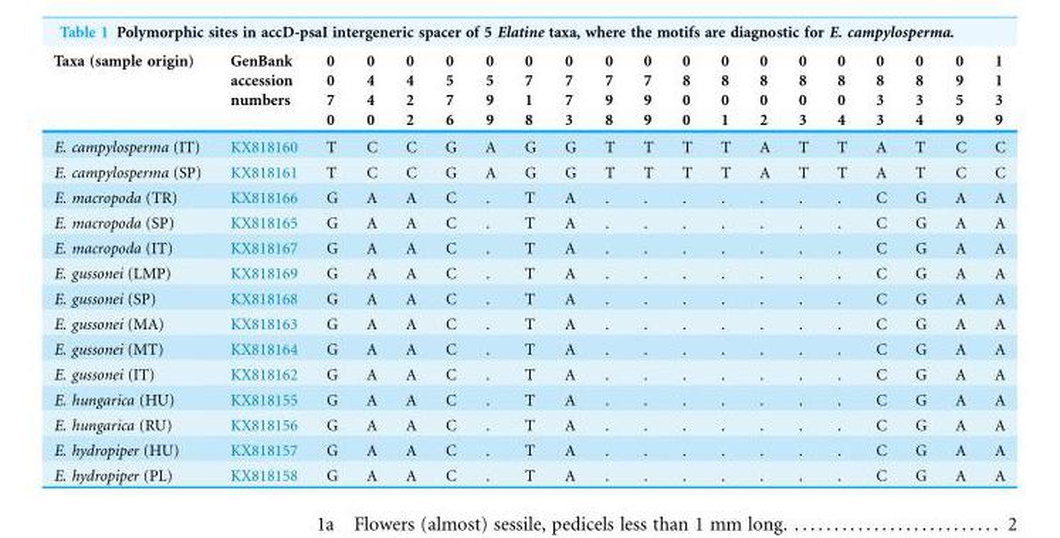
<table><thead><tr><td rowspan="4">Taxa (sample origin)</td><td rowspan="4">GenBank accession numbers</td><td rowspan="4">0 0 7 0</td><td rowspan="4">0 4 4 0</td><td rowspan="4">0 4 2 2</td><td rowspan="4">0 5 7 6</td><td rowspan="4">0 5 9 9</td><td rowspan="4">0 7 1 8</td><td rowspan="4">0 7 7 3</td><td rowspan="4">0 7 9 8</td><td rowspan="4">0 7 9 9</td><td rowspan="4">0 8 0 0</td><td rowspan="4">0 8 0 1</td><td rowspan="4">0 8 0 2</td><td rowspan="4">0 8 0 3</td><td rowspan="4">0 8 0 4</td><td rowspan="4">0 8 3 3</td><td rowspan="4">0 8 3 4</td><td rowspan="4">0 9 5 9</td><td rowspan="4">1 1 3 9</td></tr><tr></tr><tr></tr><tr></tr></thead><tbody><tr><td>E. campylosperma (IT)</td><td>KX818160</td><td>T</td><td>C</td><td>C</td><td>G</td><td>A</td><td>G</td><td>G</td><td>T</td><td>T</td><td>T</td><td>T</td><td>A</td><td>T</td><td>T</td><td>A</td><td>T</td><td>C</td><td>C</td></tr><tr><td>E. campylosperma (SP)</td><td>KX818161</td><td>T</td><td>C</td><td>C</td><td>G</td><td>A</td><td>G</td><td>G</td><td>T</td><td>T</td><td>T</td><td>T</td><td>A</td><td>T</td><td>T</td><td>A</td><td>T</td><td>C</td><td>C</td></tr><tr><td>E. macropoda (TR)</td><td>KX818166</td><td>G</td><td>A</td><td>A</td><td>C</td><td>.</td><td>T</td><td>A</td><td>.</td><td>.</td><td>.</td><td>.</td><td>.</td><td>.</td><td>.</td><td>C</td><td>G</td><td>A</td><td>A</td></tr><tr><td>E. macropoda (SP)</td><td>KX818165</td><td>G</td><td>A</td><td>A</td><td>C</td><td>.</td><td>T</td><td>A</td><td>.</td><td>.</td><td>.</td><td>.</td><td>.</td><td>.</td><td>.</td><td>C</td><td>G</td><td>A</td><td>A</td></tr><tr><td>E. macropoda (IT)</td><td>KX818167</td><td>G</td><td>A</td><td>A</td><td>C</td><td>.</td><td>T</td><td>A</td><td>.</td><td>.</td><td>.</td><td>.</td><td>.</td><td>.</td><td>.</td><td>C</td><td>G</td><td>A</td><td>A</td></tr><tr><td>E. gussonei (LMP)</td><td>KX818169</td><td>G</td><td>A</td><td>A</td><td>C</td><td>.</td><td>T</td><td>A</td><td>.</td><td>.</td><td>.</td><td>.</td><td>.</td><td>.</td><td>.</td><td>C</td><td>G</td><td>A</td><td>A</td></tr><tr><td>E. gussonei (SP)</td><td>KX818168</td><td>G</td><td>A</td><td>A</td><td>C</td><td>.</td><td>T</td><td>A</td><td>.</td><td>.</td><td>.</td><td>.</td><td>.</td><td>.</td><td>.</td><td>C</td><td>G</td><td>A</td><td>A</td></tr><tr><td>E. gussonei (MA)</td><td>KX818163</td><td>G</td><td>A</td><td>A</td><td>C</td><td>.</td><td>T</td><td>A</td><td>.</td><td>.</td><td>.</td><td>.</td><td>.</td><td>.</td><td>.</td><td>C</td><td>G</td><td>A</td><td>A</td></tr><tr><td>E. gussonei (MT)</td><td>KX818164</td><td>G</td><td>A</td><td>A</td><td>C</td><td>.</td><td>T</td><td>A</td><td>.</td><td>.</td><td>.</td><td>.</td><td>.</td><td>.</td><td>.</td><td>C</td><td>G</td><td>A</td><td>A</td></tr><tr><td>E. gussonei (IT)</td><td>KX818162</td><td>G</td><td>A</td><td>A</td><td>C</td><td>.</td><td>T</td><td>A</td><td>.</td><td>.</td><td>.</td><td>.</td><td>.</td><td>.</td><td>.</td><td>C</td><td>G</td><td>A</td><td>A</td></tr><tr><td>E. hungarica (HU)</td><td>KX818155</td><td>G</td><td>A</td><td>A</td><td>C</td><td>.</td><td>T</td><td>A</td><td>.</td><td>.</td><td>.</td><td>.</td><td>.</td><td>.</td><td>.</td><td>C</td><td>G</td><td>A</td><td>A</td></tr><tr><td>E. hungarica (RU)</td><td>KX818156</td><td>G</td><td>A</td><td>A</td><td>C</td><td>.</td><td>T</td><td>A</td><td>.</td><td>.</td><td>.</td><td>.</td><td>.</td><td>.</td><td>.</td><td>C</td><td>G</td><td>A</td><td>A</td></tr><tr><td>E. hydropiper (HU)</td><td>KX818157</td><td>G</td><td>A</td><td>A</td><td>C</td><td>.</td><td>T</td><td>A</td><td>.</td><td>.</td><td>.</td><td>.</td><td>.</td><td>.</td><td>.</td><td>C</td><td>G</td><td>A</td><td>A</td></tr><tr><td>E. hydropiper (PL)</td><td>KX818158</td><td>G</td><td>A</td><td>A</td><td>C</td><td>.</td><td>T</td><td>A</td><td>.</td><td>.</td><td>.</td><td>.</td><td>.</td><td>.</td><td>.</td><td>C</td><td>G</td><td>A</td><td>A</td></tr></tbody></table>